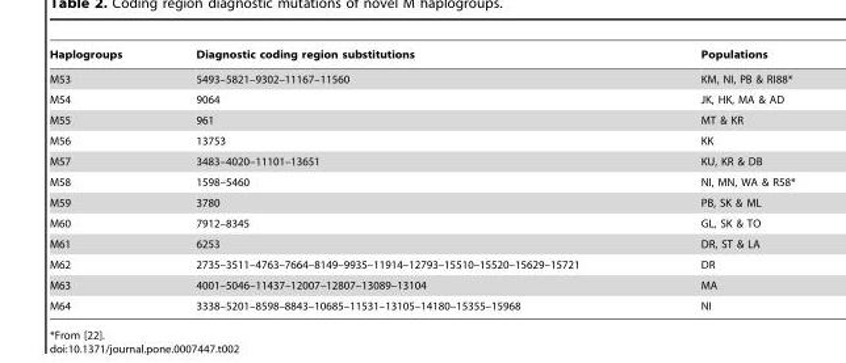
<table><thead><tr><td>Haplogroups</td><td>Diagnostic coding region substitutions</td><td>Populations</td></tr></thead><tbody><tr><td>M53</td><td>5493–5821–9302–11167–11560</td><td>KM, NI, PB &amp; RI88*</td></tr><tr><td>M54</td><td>9064</td><td>JK, HK, MA &amp; AD</td></tr><tr><td>M55</td><td>961</td><td>MT &amp; KR</td></tr><tr><td>M56</td><td>13753</td><td>KK</td></tr><tr><td>M57</td><td>3483–4020–11101–13651</td><td>KU, KR &amp; DB</td></tr><tr><td>M58</td><td>1598–5460</td><td>NI, MN, WA &amp; R58*</td></tr><tr><td>M59</td><td>3780</td><td>PB, SK &amp; ML</td></tr><tr><td>M60</td><td>7912–8345</td><td>GL, SK &amp; TO</td></tr><tr><td>M61</td><td>6253</td><td>DR, ST &amp; LA</td></tr><tr><td>M62</td><td>2735–3511–4763–7664–8149–9935–11914–12793–15510–15520–15629–15721</td><td>DR</td></tr><tr><td>M63</td><td>4001–5046–11437–12007–12807–13089–13104</td><td>MA</td></tr><tr><td>M64</td><td>3338–5201–8598–8843–10685–11531–13105–14180–15355–15968</td><td>NI</td></tr></tbody></table>